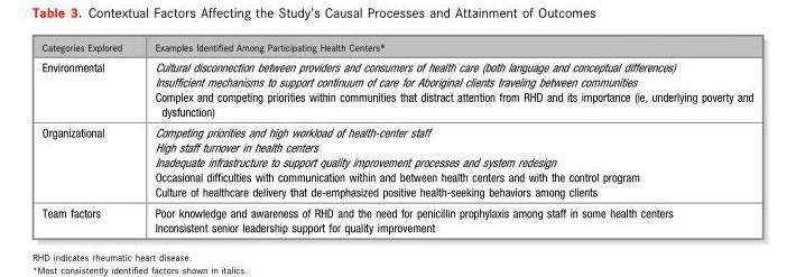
<table><thead><tr><td>Categories Explored</td><td>Examples Identified Among Participating Health Centers*</td></tr></thead><tbody><tr><td>Environmental</td><td>Cultural disconnection between providers and consumers of health care (both language and conceptual differences) Insufficient mechanisms to support continuum of care for Aboriginal clients traveling between communities Complex and competing priorities within communities that distract attention from RHD and its importance (ie, underlying poverty and dysfunction)</td></tr><tr><td>Organizational</td><td>Competing priorities and high workload of health-center staff High staff turnover in health centers Inadequate infrastructure to support quality improvement processes and system redesign Occasional difficulties with communication within and between health centers and with the control program Culture of healthcare delivery that de-emphasized positive health-seeking behaviors among clients</td></tr><tr><td>Team factors</td><td>Poor knowledge and awareness of RHD and the need for penicillin prophylaxis among staff in some health centers Inconsistent senior leadership support for quality improvement</td></tr></tbody></table>